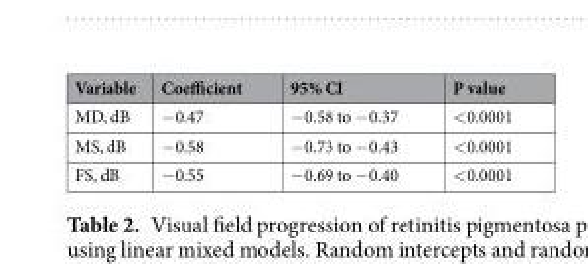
<table><thead><tr><td>Variable</td><td>Coefficient</td><td>95% CI</td><td>P value</td></tr></thead><tbody><tr><td>MD, dB</td><td>−0.47</td><td>−0.58 to −0.37</td><td>&lt;0.0001</td></tr><tr><td>MS, dB</td><td>−0.58</td><td>−0.73 to −0.43</td><td>&lt;0.0001</td></tr><tr><td>FS, dB</td><td>−0.55</td><td>−0.69 to −0.40</td><td>&lt;0.0001</td></tr></tbody></table>